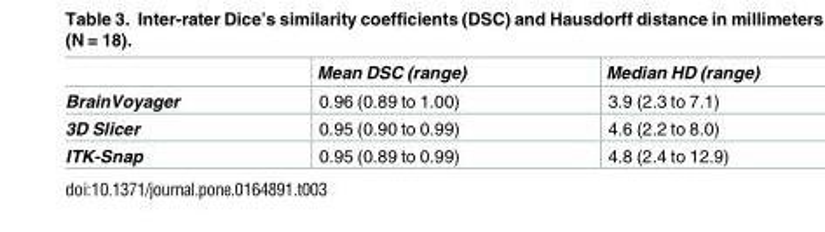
<table><thead><tr><td></td><td>Mean DSC (range)</td><td>Median HD (range)</td></tr></thead><tbody><tr><td>BrainVoyager</td><td>0.96 (0.89 to 1.00)</td><td>3.9 (2.3 to 7.1)</td></tr><tr><td>3D Slicer</td><td>0.95 (0.90 to 0.99)</td><td>4.6 (2.2 to 8.0)</td></tr><tr><td>ITK-Snap</td><td>0.95 (0.89 to 0.99)</td><td>4.8 (2.4 to 12.9)</td></tr></tbody></table>